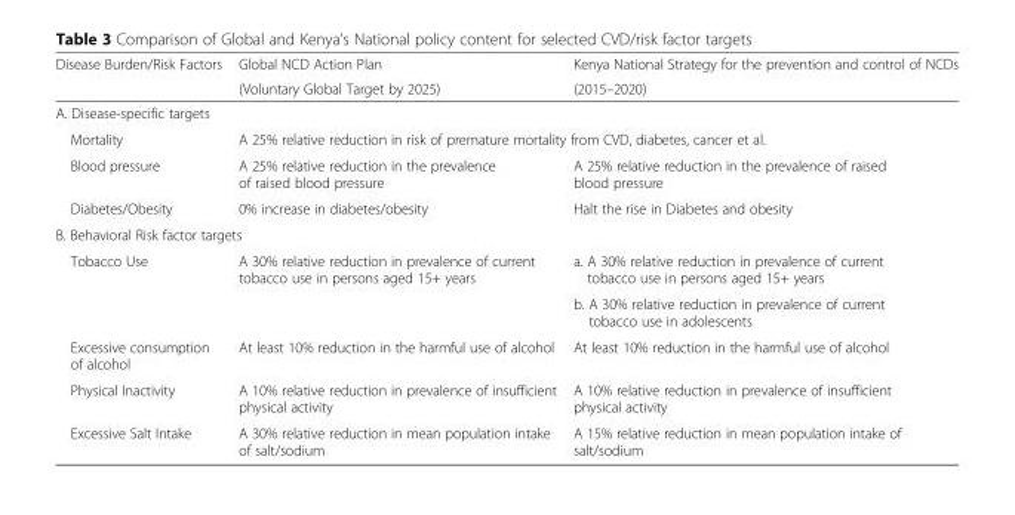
<table><thead><tr><td rowspan="2">Disease Burden/Risk Factors</td><td rowspan="2">Global NCD Action Plan (Voluntary Global Target by 2025)</td><td rowspan="2">Kenya National Strategy for the prevention and control of NCDs (2015–2020)</td></tr><tr></tr></thead><tbody><tr><td colspan="3">A. Disease-specific targets</td></tr><tr><td>Mortality</td><td colspan="2">A 25% relative reduction in risk of premature mortality from CVD, diabetes, cancer et al.</td></tr><tr><td>Blood pressure</td><td>A 25% relative reduction in the prevalence of raised blood pressure</td><td>A 25% relative reduction in the prevalence of raised blood pressure</td></tr><tr><td>Diabetes/Obesity</td><td>0% increase in diabetes/obesity</td><td>Halt the rise in Diabetes and obesity</td></tr><tr><td colspan="3">B. Behavioral Risk factor targets</td></tr><tr><td rowspan="2">Tobacco Use</td><td rowspan="2">A 30% relative reduction in prevalence of current tobacco use in persons aged 15+ years</td><td>a. A 30% relative reduction in prevalence of current tobacco use in persons aged 15+ years</td></tr><tr><td>b. A 30% relative reduction in prevalence of current tobacco use in adolescents</td></tr><tr><td>Excessive consumption of alcohol</td><td>At least 10% reduction in the harmful use of alcohol</td><td>At least 10% reduction in the harmful use of alcohol</td></tr><tr><td>Physical Inactivity</td><td>A 10% relative reduction in prevalence of insufficient physical activity</td><td>A 10% relative reduction in prevalence of insufficient physical activity</td></tr><tr><td>Excessive Salt Intake</td><td>A 30% relative reduction in mean population intake of salt/sodium</td><td>A 15% relative reduction in mean population intake of salt/sodium</td></tr></tbody></table>